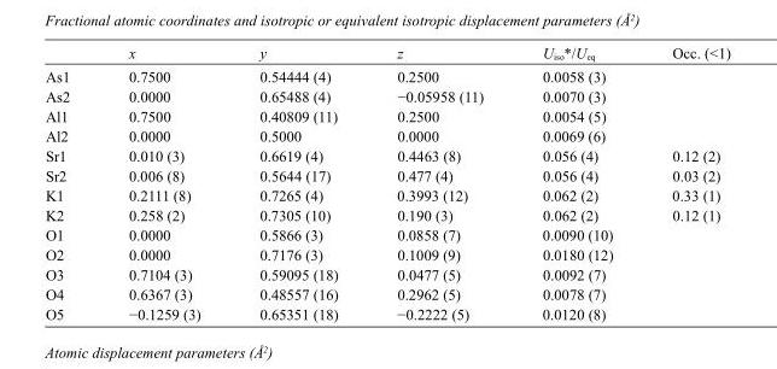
<table><thead><tr><td></td><td>x</td><td>y</td><td>z</td><td>U<sub>iso</sub>*/U<sub>eq</sub></td><td>Occ. (&lt;1)</td></tr></thead><tbody><tr><td>As1</td><td>0.7500</td><td>0.54444 (4)</td><td>0.2500</td><td>0.0058 (3)</td><td></td></tr><tr><td>As2</td><td>0.0000</td><td>0.65488 (4)</td><td>−0.05958 (11)</td><td>0.0070 (3)</td><td></td></tr><tr><td>Al1</td><td>0.7500</td><td>0.40809 (11)</td><td>0.2500</td><td>0.0054 (5)</td><td></td></tr><tr><td>Al2</td><td>0.0000</td><td>0.5000</td><td>0.0000</td><td>0.0069 (6)</td><td></td></tr><tr><td>Sr1</td><td>0.010 (3)</td><td>0.6619 (4)</td><td>0.4463 (8)</td><td>0.056 (4)</td><td>0.12 (2)</td></tr><tr><td>Sr2</td><td>0.006 (8)</td><td>0.5644 (17)</td><td>0.477 (4)</td><td>0.056 (4)</td><td>0.03 (2)</td></tr><tr><td>K1</td><td>0.2111 (8)</td><td>0.7265 (4)</td><td>0.3993 (12)</td><td>0.062 (2)</td><td>0.33 (1)</td></tr><tr><td>K2</td><td>0.258 (2)</td><td>0.7305 (10)</td><td>0.190 (3)</td><td>0.062 (2)</td><td>0.12 (1)</td></tr><tr><td>O1</td><td>0.0000</td><td>0.5866 (3)</td><td>0.0858 (7)</td><td>0.0090 (10)</td><td></td></tr><tr><td>O2</td><td>0.0000</td><td>0.7176 (3)</td><td>0.1009 (9)</td><td>0.0180 (12)</td><td></td></tr><tr><td>O3</td><td>0.7104 (3)</td><td>0.59095 (18)</td><td>0.0477 (5)</td><td>0.0092 (7)</td><td></td></tr><tr><td>O4</td><td>0.6367 (3)</td><td>0.48557 (16)</td><td>0.2962 (5)</td><td>0.0078 (7)</td><td></td></tr><tr><td>O5</td><td>−0.1259 (3)</td><td>0.65351 (18)</td><td>−0.2222 (5)</td><td>0.0120 (8)</td><td></td></tr></tbody></table>